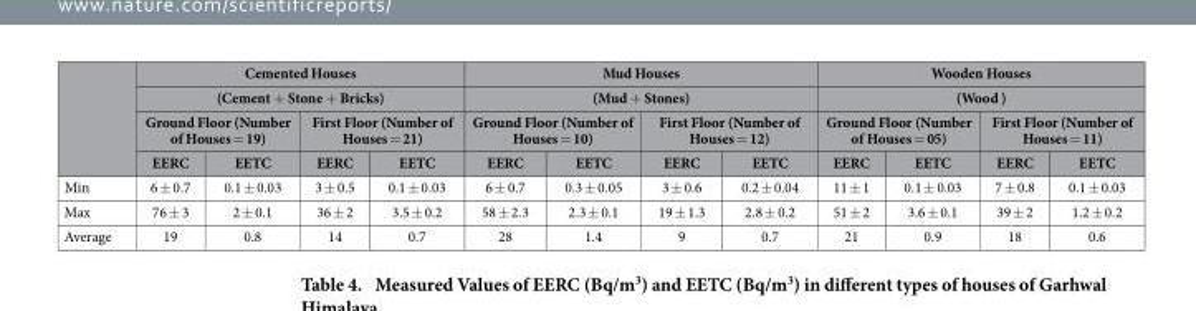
<table><thead><tr><td rowspan="4"></td><td rowspan="2" colspan="4">Cemented Houses (Cement + Stone + Bricks)</td><td rowspan="2" colspan="4">Mud Houses (Mud + Stones)</td><td rowspan="2" colspan="4">Wooden Houses (Wood )</td></tr><tr></tr><tr><td colspan="2">Ground Floor (Number of Houses = 19)</td><td colspan="2">First Floor (Number of Houses = 21)</td><td colspan="2">Ground Floor (Number of Houses = 10)</td><td colspan="2">First Floor (Number of Houses = 12)</td><td colspan="2">Ground Floor (Number of Houses = 05)</td><td colspan="2">First Floor (Number of Houses = 11)</td></tr><tr><td>EERC</td><td>EETC</td><td>EERC</td><td>EETC</td><td>EERC</td><td>EETC</td><td>EERC</td><td>EETC</td><td>EERC</td><td>EETC</td><td>EERC</td><td>EETC</td></tr></thead><tbody><tr><td>Min</td><td>6 ± 0.7</td><td>0.1 ± 0.03</td><td>3 ± 0.5</td><td>0.1 ± 0.03</td><td>6 ± 0.7</td><td>0.3 ± 0.05</td><td>3 ± 0.6</td><td>0.2 ± 0.04</td><td>11 ± 1</td><td>0.1 ± 0.03</td><td>7 ± 0.8</td><td>0.1 ± 0.03</td></tr><tr><td>Max</td><td>76 ± 3</td><td>2 ± 0.1</td><td>36 ± 2</td><td>3.5 ± 0.2</td><td>58 ± 2.3</td><td>2.3 ± 0.1</td><td>19 ± 1.3</td><td>2.8 ± 0.2</td><td>51 ± 2</td><td>3.6 ± 0.1</td><td>39 ± 2</td><td>1.2 ± 0.2</td></tr><tr><td>Average</td><td>19</td><td>0.8</td><td>14</td><td>0.7</td><td>28</td><td>1.4</td><td>9</td><td>0.7</td><td>21</td><td>0.9</td><td>18</td><td>0.6</td></tr></tbody></table>